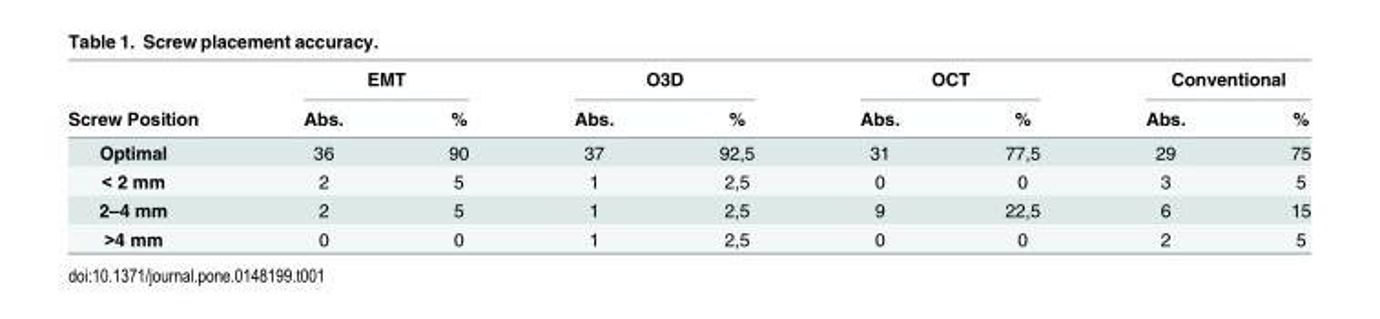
<table><thead><tr><td rowspan="2">Screw Position</td><td colspan="2">EMT</td><td colspan="2">O3D</td><td colspan="2">OCT</td><td colspan="2">Conventional</td></tr><tr><td>Abs.</td><td>%</td><td>Abs.</td><td>%</td><td>Abs.</td><td>%</td><td>Abs.</td><td>%</td></tr></thead><tbody><tr><td>Optimal</td><td>36</td><td>90</td><td>37</td><td>92,5</td><td>31</td><td>77,5</td><td>29</td><td>75</td></tr><tr><td>&lt; 2 mm</td><td>2</td><td>5</td><td>1</td><td>2,5</td><td>0</td><td>0</td><td>3</td><td>5</td></tr><tr><td>2–4 mm</td><td>2</td><td>5</td><td>1</td><td>2,5</td><td>9</td><td>22,5</td><td>6</td><td>15</td></tr><tr><td>&gt;4 mm</td><td>0</td><td>0</td><td>1</td><td>2,5</td><td>0</td><td>0</td><td>2</td><td>5</td></tr></tbody></table>